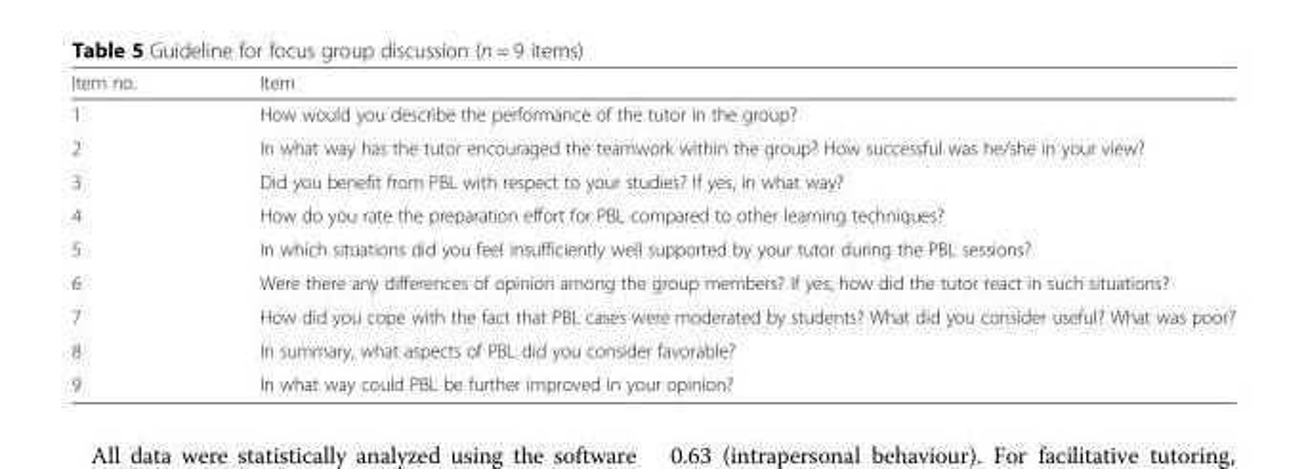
<table><thead><tr><td>Item no.</td><td>Item</td></tr></thead><tbody><tr><td>1</td><td>How would you describe the performance of the tutor in the group?</td></tr><tr><td>2</td><td>In what way has the tutor encouraged the teamwork within the group? How successful was he/she in your view?</td></tr><tr><td>3</td><td>Did you benefit from PBL with respect to your studies? If yes, in what way?</td></tr><tr><td>4</td><td>How do you rate the preparation effort for PBL compared to other learning techniques?</td></tr><tr><td>5</td><td>In which situations did you feel insufficiently well supported by your tutor during the PBL sessions?</td></tr><tr><td>6</td><td>Were there any differences of opinion among the group members? If yes, how did the tutor react in such situations?</td></tr><tr><td>7</td><td>How did you cope with the fact that PBL cases were moderated by students? What did you consider useful? What was poor?</td></tr><tr><td>8</td><td>In summary, what aspects of PBL did you consider favorable?</td></tr><tr><td>9</td><td>In what way could PBL be further improved in your opinion?</td></tr></tbody></table>